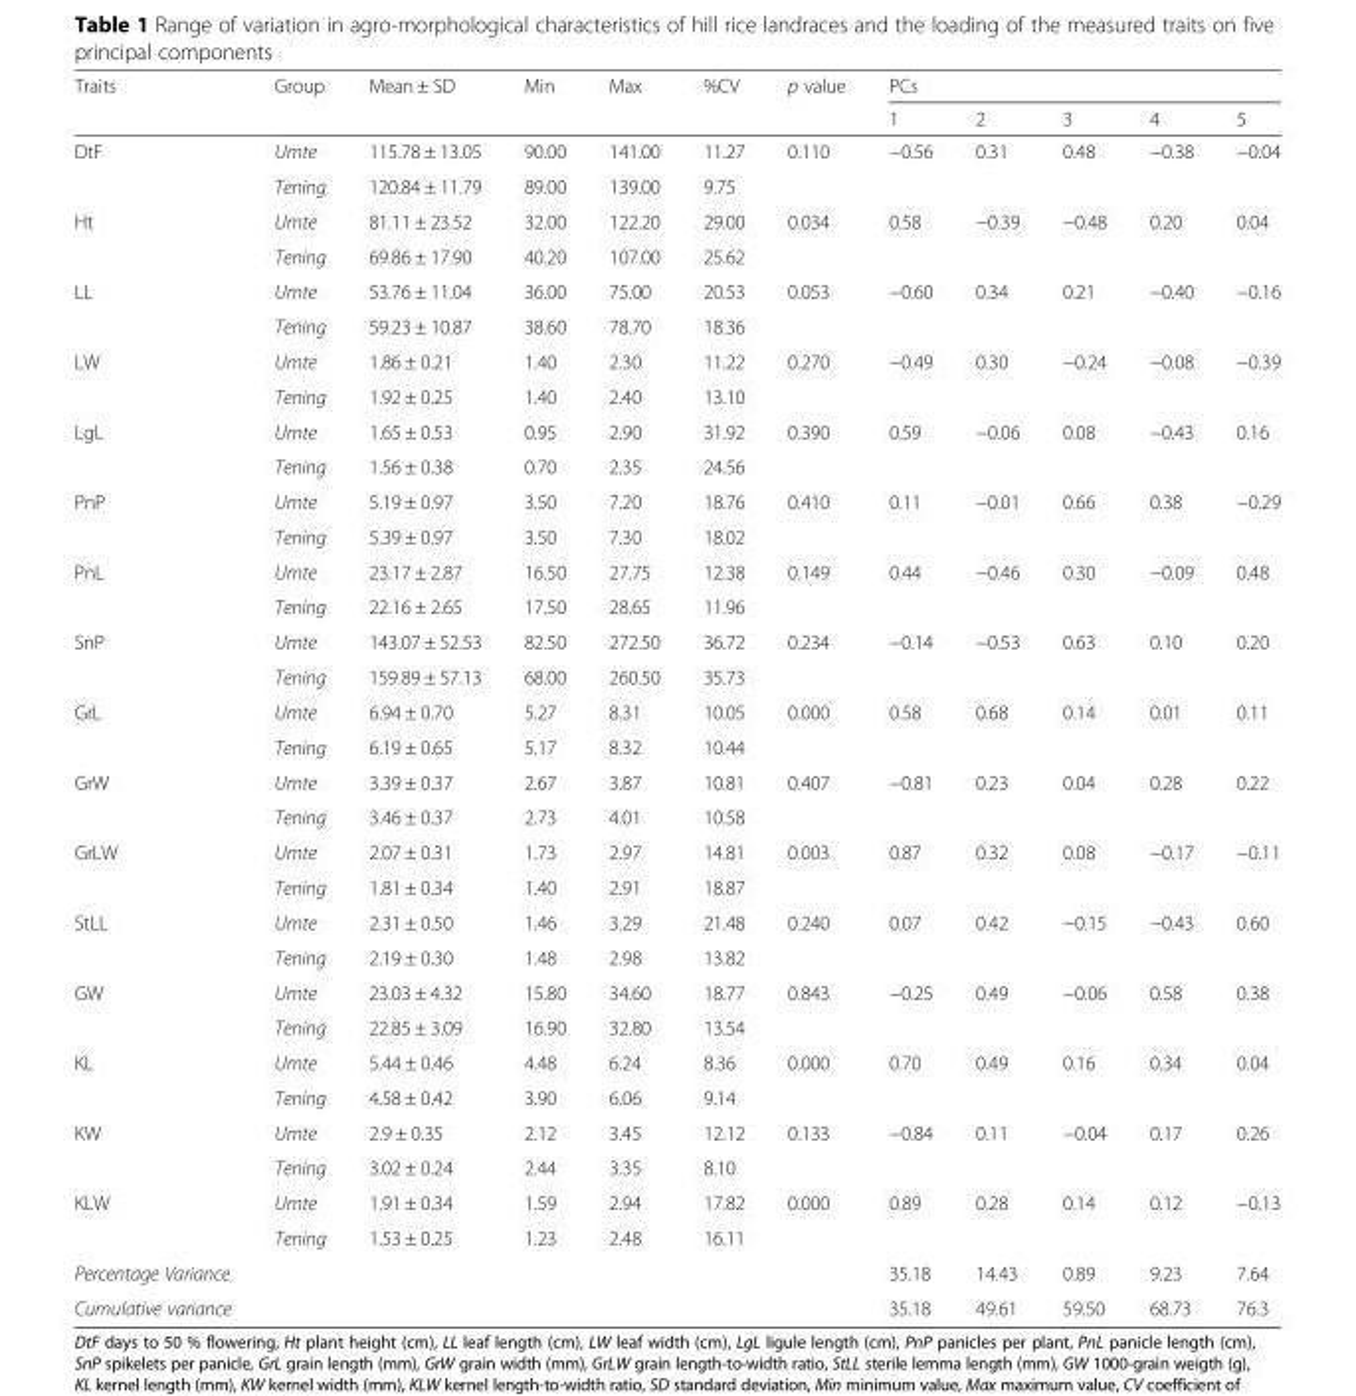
<table><thead><tr><td rowspan="2">Traits</td><td rowspan="2">Group</td><td rowspan="2">Mean ± SD</td><td rowspan="2">Min</td><td rowspan="2">Max</td><td rowspan="2">%CV</td><td rowspan="2">p value</td><td colspan="5">PCs</td></tr><tr><td>1</td><td>2</td><td>3</td><td>4</td><td>5</td></tr></thead><tbody><tr><td rowspan="2">DtF</td><td>Umte</td><td>115.78 ± 13.05</td><td>90.00</td><td>141.00</td><td>11.27</td><td>0.110</td><td>−0.56</td><td>0.31</td><td>0.48</td><td>−0.38</td><td>−0.04</td></tr><tr><td>Tening</td><td>120.84 ± 11.79</td><td>89.00</td><td>139.00</td><td>9.75</td><td></td><td></td><td></td><td></td><td></td><td></td></tr><tr><td rowspan="2">Ht</td><td>Umte</td><td>81.11 ± 23.52</td><td>32.00</td><td>122.20</td><td>29.00</td><td>0.034</td><td>0.58</td><td>−0.39</td><td>−0.48</td><td>0.20</td><td>0.04</td></tr><tr><td>Tening</td><td>69.86 ± 17.90</td><td>40.20</td><td>107.00</td><td>25.62</td><td></td><td></td><td></td><td></td><td></td><td></td></tr><tr><td rowspan="2">LL</td><td>Umte</td><td>53.76 ± 11.04</td><td>36.00</td><td>75.00</td><td>20.53</td><td>0.053</td><td>−0.60</td><td>0.34</td><td>0.21</td><td>−0.40</td><td>−0.16</td></tr><tr><td>Tening</td><td>59.23 ± 10.87</td><td>38.60</td><td>78.70</td><td>18.36</td><td></td><td></td><td></td><td></td><td></td><td></td></tr><tr><td rowspan="2">LW</td><td>Umte</td><td>1.86 ± 0.21</td><td>1.40</td><td>2.30</td><td>11.22</td><td>0.270</td><td>−0.49</td><td>0.30</td><td>−0.24</td><td>−0.08</td><td>−0.39</td></tr><tr><td>Tening</td><td>1.92 ± 0.25</td><td>1.40</td><td>2.40</td><td>13.10</td><td></td><td></td><td></td><td></td><td></td><td></td></tr><tr><td rowspan="2">LgL</td><td>Umte</td><td>1.65 ± 0.53</td><td>0.95</td><td>2.90</td><td>31.92</td><td>0.390</td><td>0.59</td><td>−0.06</td><td>0.08</td><td>−0.43</td><td>0.16</td></tr><tr><td>Tening</td><td>1.56 ± 0.38</td><td>0.70</td><td>2.35</td><td>24.56</td><td></td><td></td><td></td><td></td><td></td><td></td></tr><tr><td rowspan="2">PnP</td><td>Umte</td><td>5.19 ± 0.97</td><td>3.50</td><td>7.20</td><td>18.76</td><td>0.410</td><td>0.11</td><td>−0.01</td><td>0.66</td><td>0.38</td><td>−0.29</td></tr><tr><td>Tening</td><td>5.39 ± 0.97</td><td>3.50</td><td>7.30</td><td>18.02</td><td></td><td></td><td></td><td></td><td></td><td></td></tr><tr><td rowspan="2">PnL</td><td>Umte</td><td>23.17 ± 2.87</td><td>16.50</td><td>27.75</td><td>12.38</td><td>0.149</td><td>0.44</td><td>−0.46</td><td>0.30</td><td>−0.09</td><td>0.48</td></tr><tr><td>Tening</td><td>22.16 ± 2.65</td><td>17.50</td><td>28.65</td><td>11.96</td><td></td><td></td><td></td><td></td><td></td><td></td></tr><tr><td rowspan="2">SnP</td><td>Umte</td><td>143.07 ± 52.53</td><td>82.50</td><td>272.50</td><td>36.72</td><td>0.234</td><td>−0.14</td><td>−0.53</td><td>0.63</td><td>0.10</td><td>0.20</td></tr><tr><td>Tening</td><td>159.89 ± 57.13</td><td>68.00</td><td>260.50</td><td>35.73</td><td></td><td></td><td></td><td></td><td></td><td></td></tr><tr><td rowspan="2">GrL</td><td>Umte</td><td>6.94 ± 0.70</td><td>5.27</td><td>8.31</td><td>10.05</td><td>0.000</td><td>0.58</td><td>0.68</td><td>0.14</td><td>0.01</td><td>0.11</td></tr><tr><td>Tening</td><td>6.19 ± 0.65</td><td>5.17</td><td>8.32</td><td>10.44</td><td></td><td></td><td></td><td></td><td></td><td></td></tr><tr><td rowspan="2">GrW</td><td>Umte</td><td>3.39 ± 0.37</td><td>2.67</td><td>3.87</td><td>10.81</td><td>0.407</td><td>−0.81</td><td>0.23</td><td>0.04</td><td>0.28</td><td>0.22</td></tr><tr><td>Tening</td><td>3.46 ± 0.37</td><td>2.73</td><td>4.01</td><td>10.58</td><td></td><td></td><td></td><td></td><td></td><td></td></tr><tr><td rowspan="2">GrLW</td><td>Umte</td><td>2.07 ± 0.31</td><td>1.73</td><td>2.97</td><td>14.81</td><td>0.003</td><td>0.87</td><td>0.32</td><td>0.08</td><td>−0.17</td><td>−0.11</td></tr><tr><td>Tening</td><td>1.81 ± 0.34</td><td>1.40</td><td>2.91</td><td>18.87</td><td></td><td></td><td></td><td></td><td></td><td></td></tr><tr><td rowspan="2">StLL</td><td>Umte</td><td>2.31 ± 0.50</td><td>1.46</td><td>3.29</td><td>21.48</td><td>0.240</td><td>0.07</td><td>0.42</td><td>−0.15</td><td>−0.43</td><td>0.60</td></tr><tr><td>Tening</td><td>2.19 ± 0.30</td><td>1.48</td><td>2.98</td><td>13.82</td><td></td><td></td><td></td><td></td><td></td><td></td></tr><tr><td rowspan="2">GW</td><td>Umte</td><td>23.03 ± 4.32</td><td>15.80</td><td>34.60</td><td>18.77</td><td>0.843</td><td>−0.25</td><td>0.49</td><td>−0.06</td><td>0.58</td><td>0.38</td></tr><tr><td>Tening</td><td>22.85 ± 3.09</td><td>16.90</td><td>32.80</td><td>13.54</td><td></td><td></td><td></td><td></td><td></td><td></td></tr><tr><td rowspan="2">KL</td><td>Umte</td><td>5.44 ± 0.46</td><td>4.48</td><td>6.24</td><td>8.36</td><td>0.000</td><td>0.70</td><td>0.49</td><td>0.16</td><td>0.34</td><td>0.04</td></tr><tr><td>Tening</td><td>4.58 ± 0.42</td><td>3.90</td><td>6.06</td><td>9.14</td><td></td><td></td><td></td><td></td><td></td><td></td></tr><tr><td rowspan="2">KW</td><td>Umte</td><td>2.9 ± 0.35</td><td>2.12</td><td>3.45</td><td>12.12</td><td>0.133</td><td>−0.84</td><td>0.11</td><td>−0.04</td><td>0.17</td><td>0.26</td></tr><tr><td>Tening</td><td>3.02 ± 0.24</td><td>2.44</td><td>3.35</td><td>8.10</td><td></td><td></td><td></td><td></td><td></td><td></td></tr><tr><td rowspan="2">KLW</td><td>Umte</td><td>1.91 ± 0.34</td><td>1.59</td><td>2.94</td><td>17.82</td><td>0.000</td><td>0.89</td><td>0.28</td><td>0.14</td><td>0.12</td><td>−0.13</td></tr><tr><td>Tening</td><td>1.53 ± 0.25</td><td>1.23</td><td>2.48</td><td>16.11</td><td></td><td></td><td></td><td></td><td></td><td></td></tr><tr><td>Percentage Variance</td><td></td><td></td><td></td><td></td><td></td><td></td><td>35.18</td><td>14.43</td><td>0.89</td><td>9.23</td><td>7.64</td></tr><tr><td>Cumulative variance</td><td></td><td></td><td></td><td></td><td></td><td></td><td>35.18</td><td>49.61</td><td>59.50</td><td>68.73</td><td>76.3</td></tr></tbody></table>